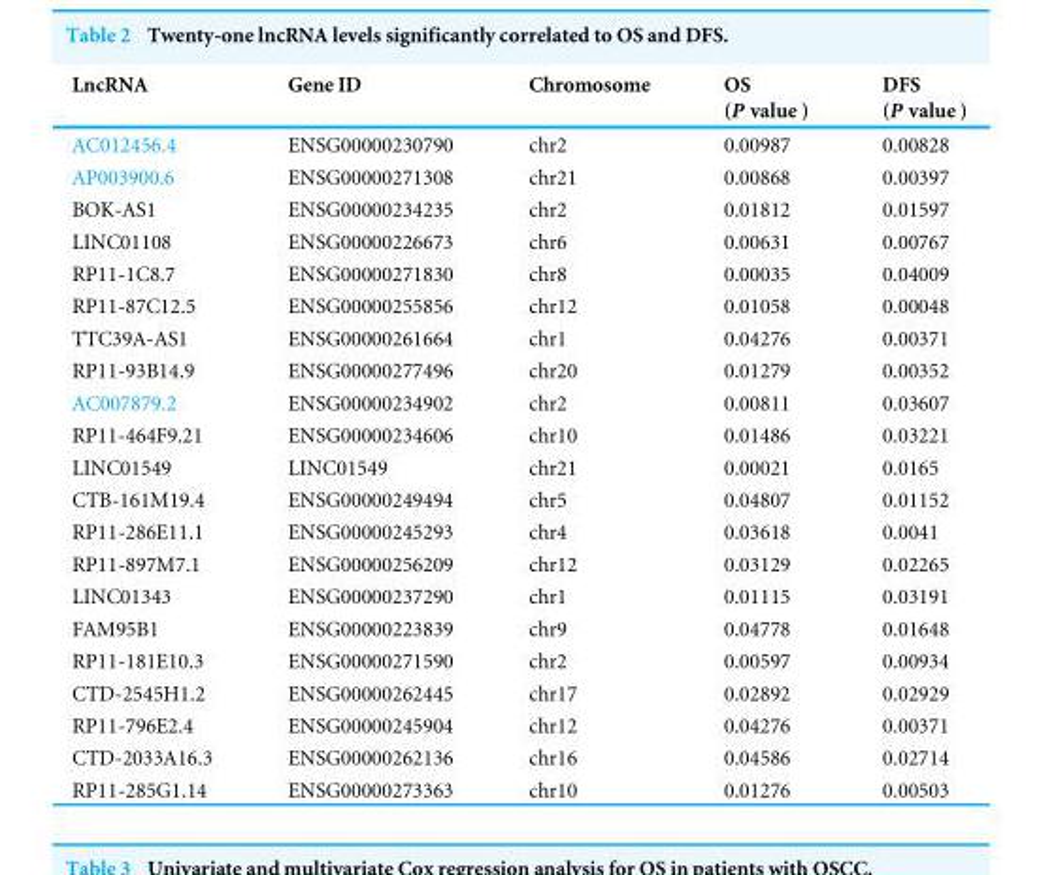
<table><thead><tr><td>LncRNA</td><td>Gene ID</td><td>Chromosome</td><td>OS (P value )</td><td>DFS (P value )</td></tr></thead><tbody><tr><td>AC012456.4</td><td>ENSG00000230790</td><td>chr2</td><td>0.00987</td><td>0.00828</td></tr><tr><td>AP003900.6</td><td>ENSG00000271308</td><td>chr21</td><td>0.00868</td><td>0.00397</td></tr><tr><td>BOK-AS1</td><td>ENSG00000234235</td><td>chr2</td><td>0.01812</td><td>0.01597</td></tr><tr><td>LINC01108</td><td>ENSG00000226673</td><td>chr6</td><td>0.00631</td><td>0.00767</td></tr><tr><td>RP11-1C8.7</td><td>ENSG00000271830</td><td>chr8</td><td>0.00035</td><td>0.04009</td></tr><tr><td>RP11-87C12.5</td><td>ENSG00000255856</td><td>chr12</td><td>0.01058</td><td>0.00048</td></tr><tr><td>TTC39A-AS1</td><td>ENSG00000261664</td><td>chr1</td><td>0.04276</td><td>0.00371</td></tr><tr><td>RP11-93B14.9</td><td>ENSG00000277496</td><td>chr20</td><td>0.01279</td><td>0.00352</td></tr><tr><td>AC007879.2</td><td>ENSG00000234902</td><td>chr2</td><td>0.00811</td><td>0.03607</td></tr><tr><td>RP11-464F9.21</td><td>ENSG00000234606</td><td>chr10</td><td>0.01486</td><td>0.03221</td></tr><tr><td>LINC01549</td><td>LINC01549</td><td>chr21</td><td>0.00021</td><td>0.0165</td></tr><tr><td>CTB-161M19.4</td><td>ENSG00000249494</td><td>chr5</td><td>0.04807</td><td>0.01152</td></tr><tr><td>RP11-286E11.1</td><td>ENSG00000245293</td><td>chr4</td><td>0.03618</td><td>0.0041</td></tr><tr><td>RP11-897M7.1</td><td>ENSG00000256209</td><td>chr12</td><td>0.03129</td><td>0.02265</td></tr><tr><td>LINC01343</td><td>ENSG00000237290</td><td>chr1</td><td>0.01115</td><td>0.03191</td></tr><tr><td>FAM95B1</td><td>ENSG00000223839</td><td>chr9</td><td>0.04778</td><td>0.01648</td></tr><tr><td>RP11-181E10.3</td><td>ENSG00000271590</td><td>chr2</td><td>0.00597</td><td>0.00934</td></tr><tr><td>CTD-2545H1.2</td><td>ENSG00000262445</td><td>chr17</td><td>0.02892</td><td>0.02929</td></tr><tr><td>RP11-796E2.4</td><td>ENSG00000245904</td><td>chr12</td><td>0.04276</td><td>0.00371</td></tr><tr><td>CTD-2033A16.3</td><td>ENSG00000262136</td><td>chr16</td><td>0.04586</td><td>0.02714</td></tr><tr><td>RP11-285G1.14</td><td>ENSG00000273363</td><td>chr10</td><td>0.01276</td><td>0.00503</td></tr></tbody></table>